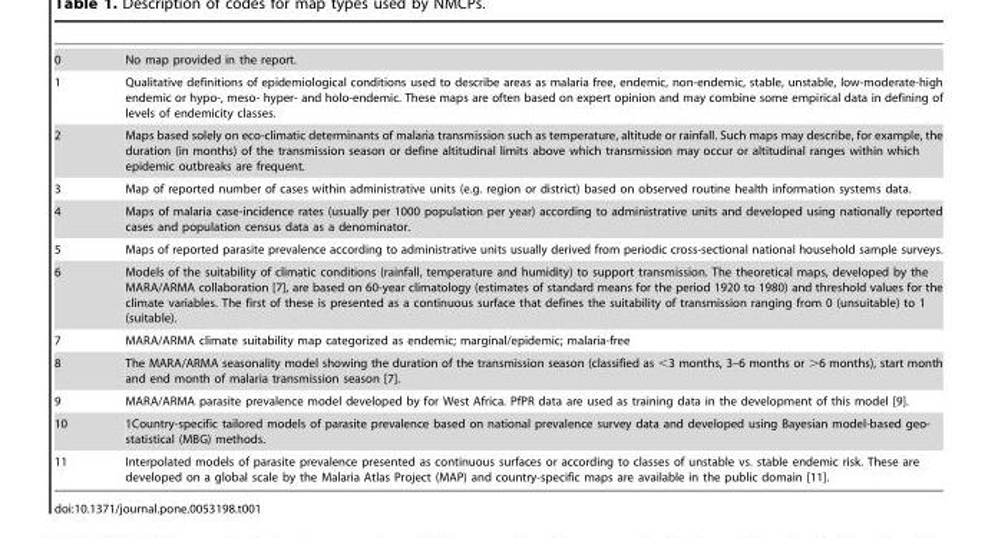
<table><tbody><tr><td>0</td><td>No map provided in the report.</td></tr><tr><td>1</td><td>Qualitative definitions of epidemiological conditions used to describe areas as malaria free, endemic, non-endemic, stable, unstable, low-moderate-high endemic or hypo-, meso- hyper- and holo-endemic. These maps are often based on expert opinion and may combine some empirical data in defining of levels of endemicity classes.</td></tr><tr><td>2</td><td>Maps based solely on eco-climatic determinants of malaria transmission such as temperature, altitude or rainfall. Such maps may describe, for example, the duration (in months) of the transmission season or define altitudinal limits above which transmission may occur or altitudinal ranges within which epidemic outbreaks are frequent.</td></tr><tr><td>3</td><td>Map of reported number of cases within administrative units (e.g. region or district) based on observed routine health information systems data.</td></tr><tr><td>4</td><td>Maps of malaria case-incidence rates (usually per 1000 population per year) according to administrative units and developed using nationally reported cases and population census data as a denominator.</td></tr><tr><td>5</td><td>Maps of reported parasite prevalence according to administrative units usually derived from periodic cross-sectional national household sample surveys.</td></tr><tr><td>6</td><td>Models of the suitability of climatic conditions (rainfall, temperature and humidity) to support transmission. The theoretical maps, developed by the MARA/ARMA collaboration [7], are based on 60-year climatology (estimates of standard means for the period 1920 to 1980) and threshold values for the climate variables. The first of these is presented as a continuous surface that defines the suitability of transmission ranging from 0 (unsuitable) to 1 (suitable).</td></tr><tr><td>7</td><td>MARA/ARMA climate suitability map categorized as endemic; marginal/epidemic; malaria-free</td></tr><tr><td>8</td><td>The MARA/ARMA seasonality model showing the duration of the transmission season (classified as &lt;3 months, 3–6 months or &gt;6 months), start month and end month of malaria transmission season [7].</td></tr><tr><td>9</td><td>MARA/ARMA parasite prevalence model developed by for West Africa. PfPR data are used as training data in the development of this model [9].</td></tr><tr><td>10</td><td>1Country-specific tailored models of parasite prevalence based on national prevalence survey data and developed using Bayesian model-based geo- statistical (MBG) methods.</td></tr><tr><td>11</td><td>Interpolated models of parasite prevalence presented as continuous surfaces or according to classes of unstable vs. stable endemic risk. These are developed on a global scale by the Malaria Atlas Project (MAP) and country-specific maps are available in the public domain [11].</td></tr></tbody></table>